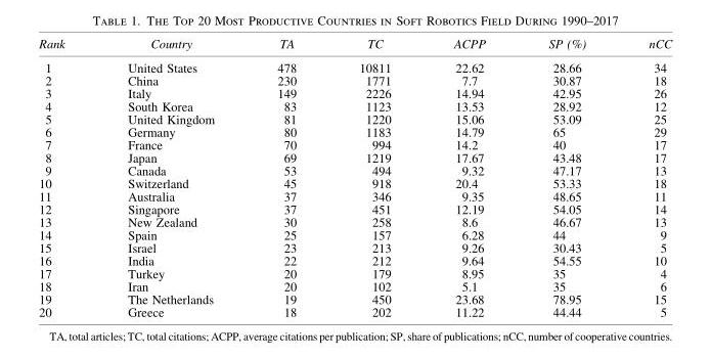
<table><thead><tr><td>Rank</td><td>Country</td><td>TA</td><td>TC</td><td>ACPP</td><td>SP (%)</td><td>nCC</td></tr></thead><tbody><tr><td>1</td><td>United States</td><td>478</td><td>10811</td><td>22.62</td><td>28.66</td><td>34</td></tr><tr><td>2</td><td>China</td><td>230</td><td>1771</td><td>7.7</td><td>30.87</td><td>18</td></tr><tr><td>3</td><td>Italy</td><td>149</td><td>2226</td><td>14.94</td><td>42.95</td><td>26</td></tr><tr><td>4</td><td>South Korea</td><td>83</td><td>1123</td><td>13.53</td><td>28.92</td><td>12</td></tr><tr><td>5</td><td>United Kingdom</td><td>81</td><td>1220</td><td>15.06</td><td>53.09</td><td>25</td></tr><tr><td>6</td><td>Germany</td><td>80</td><td>1183</td><td>14.79</td><td>65</td><td>29</td></tr><tr><td>7</td><td>France</td><td>70</td><td>994</td><td>14.2</td><td>40</td><td>17</td></tr><tr><td>8</td><td>Japan</td><td>69</td><td>1219</td><td>17.67</td><td>43.48</td><td>17</td></tr><tr><td>9</td><td>Canada</td><td>53</td><td>494</td><td>9.32</td><td>47.17</td><td>13</td></tr><tr><td>10</td><td>Switzerland</td><td>45</td><td>918</td><td>20.4</td><td>53.33</td><td>18</td></tr><tr><td>11</td><td>Australia</td><td>37</td><td>346</td><td>9.35</td><td>48.65</td><td>11</td></tr><tr><td>12</td><td>Singapore</td><td>37</td><td>451</td><td>12.19</td><td>54.05</td><td>14</td></tr><tr><td>13</td><td>New Zealand</td><td>30</td><td>258</td><td>8.6</td><td>46.67</td><td>13</td></tr><tr><td>14</td><td>Spain</td><td>25</td><td>157</td><td>6.28</td><td>44</td><td>9</td></tr><tr><td>15</td><td>Israel</td><td>23</td><td>213</td><td>9.26</td><td>30.43</td><td>5</td></tr><tr><td>16</td><td>India</td><td>22</td><td>212</td><td>9.64</td><td>54.55</td><td>10</td></tr><tr><td>17</td><td>Turkey</td><td>20</td><td>179</td><td>8.95</td><td>35</td><td>4</td></tr><tr><td>18</td><td>Iran</td><td>20</td><td>102</td><td>5.1</td><td>35</td><td>6</td></tr><tr><td>19</td><td>The Netherlands</td><td>19</td><td>450</td><td>23.68</td><td>78.95</td><td>15</td></tr><tr><td>20</td><td>Greece</td><td>18</td><td>202</td><td>11.22</td><td>44.44</td><td>5</td></tr></tbody></table>